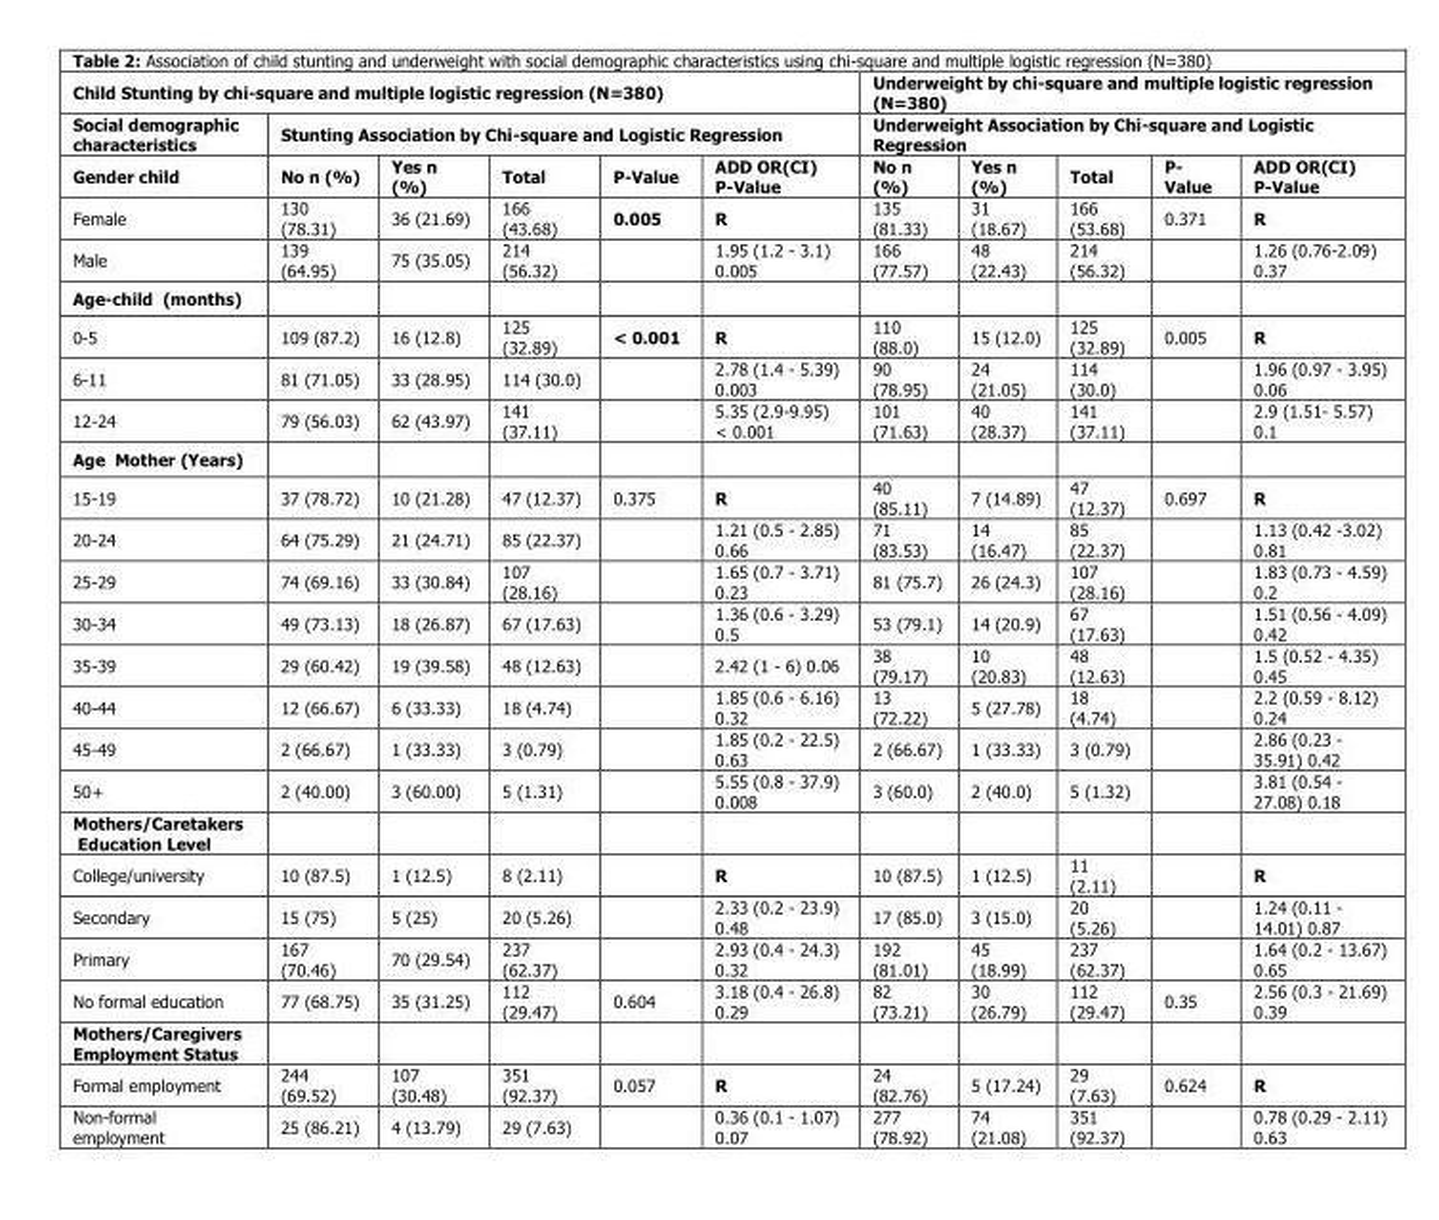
<table><thead><tr><td colspan="6">Child Stunting by chi-square and multiple logistic regression (N=380)</td><td rowspan="2" colspan="5">Underweight by chi-square and multiple logistic regression (N=380) Underweight Association by Chi-square and Logistic Regression</td></tr><tr><td rowspan="2">Social demographic characteristics Gender child</td><td colspan="5">Stunting Association by Chi-square and Logistic Regression</td></tr><tr><td>No n (%)</td><td>Yes n (%)</td><td>Total</td><td>P-Value</td><td>ADD OR(CI) P-Value</td><td>No n (%)</td><td>Yes n (%)</td><td>Total</td><td>P- Value</td><td>ADD OR(CI) P-Value</td></tr></thead><tbody><tr><td>Female</td><td>130 (78.31)</td><td>36 (21.69)</td><td>166 (43.68)</td><td>0.005</td><td>R</td><td>135 (81.33)</td><td>31 (18.67)</td><td>166 (53.68)</td><td>0.371</td><td>R</td></tr><tr><td>Male</td><td>139 (64.95)</td><td>75 (35.05)</td><td>214 (56.32)</td><td></td><td>1.95 (1.2 - 3.1) 0.005</td><td>166 (77.57)</td><td>48 (22.43)</td><td>214 (56.32)</td><td></td><td>1.26 (0.76-2.09) 0.37</td></tr><tr><td colspan="11">Age-child (months)</td></tr><tr><td>0-5</td><td>109 (87.2)</td><td>16 (12.8)</td><td>125 (32.89)</td><td>&lt; 0.001</td><td>R</td><td>110 (88.0)</td><td>15 (12.0)</td><td>125 (32.89)</td><td>0.005</td><td>R</td></tr><tr><td>6-11</td><td>81 (71.05)</td><td>33 (28.95)</td><td>114 (30.0)</td><td></td><td>2.78 (1.4 - 5.39) 0.003</td><td>90 (78.95)</td><td>24 (21.05)</td><td>114 (30.0)</td><td></td><td>1.96 (0.97 - 3.95) 0.06</td></tr><tr><td>12-24</td><td>79 (56.03)</td><td>62 (43.97)</td><td>141 (37.11)</td><td></td><td>5.35 (2.9-9.95) &lt; 0.001</td><td>101 (71.63)</td><td>40 (28.37)</td><td>141 (37.11)</td><td></td><td>2.9 (1.51- 5.57) 0.1</td></tr><tr><td colspan="11">Age Mother (Years)</td></tr><tr><td>15-19</td><td>37 (78.72)</td><td>10 (21.28)</td><td>47 (12.37)</td><td>0.375</td><td>R</td><td>40 (85.11)</td><td>7 (14.89)</td><td>47 (12.37)</td><td>0.697</td><td>R</td></tr><tr><td>20-24</td><td>64 (75.29)</td><td>21 (24.71)</td><td>85 (22.37)</td><td></td><td>1.21 (0.5 - 2.85) 0.66</td><td>71 (83.53)</td><td>14 (16.47)</td><td>85 (22.37)</td><td></td><td>1.13 (0.42 -3.02) 0.81</td></tr><tr><td>25-29</td><td>74 (69.16)</td><td>33 (30.84)</td><td>107 (28.16)</td><td></td><td>1.65 (0.7 - 3.71) 0.23</td><td>81 (75.7)</td><td>26 (24.3)</td><td>107 (28.16)</td><td></td><td>1.83 (0.73 - 4.59) 0.2</td></tr><tr><td>30-34</td><td>49 (73.13)</td><td>18 (26.87)</td><td>67 (17.63)</td><td></td><td>1.36 (0.6 - 3.29) 0.5</td><td>53 (79.1)</td><td>14 (20.9)</td><td>67 (17.63)</td><td></td><td>1.51 (0.56 - 4.09) 0.42</td></tr><tr><td>35-39</td><td>29 (60.42)</td><td>19 (39.58)</td><td>48 (12.63)</td><td></td><td>2.42 (1 - 6) 0.06</td><td>38 (79.17)</td><td>10 (20.83)</td><td>48 (12.63)</td><td></td><td>1.5 (0.52 - 4.35) 0.45</td></tr><tr><td>40-44</td><td>12 (66.67)</td><td>6 (33.33)</td><td>18 (4.74)</td><td></td><td>1.85 (0.6 - 6.16) 0.32</td><td>13 (72.22)</td><td>5 (27.78)</td><td>18 (4.74)</td><td></td><td>2.2 (0.59 - 8.12) 0.24</td></tr><tr><td>45-49</td><td>2 (66.67)</td><td>1 (33.33)</td><td>3 (0.79)</td><td></td><td>1.85 (0.2 - 22.5) 0.63</td><td>2 (66.67)</td><td>1 (33.33)</td><td>3 (0.79)</td><td></td><td>2.86 (0.23 - 35.91) 0.42</td></tr><tr><td>50+</td><td>2 (40.00)</td><td>3 (60.00)</td><td>5 (1.31)</td><td></td><td>5.55 (0.8 - 37.9) 0.008</td><td>3 (60.0)</td><td>2 (40.0)</td><td>5 (1.32)</td><td></td><td>3.81 (0.54 - 27.08) 0.18</td></tr><tr><td colspan="11">Mothers/Caretakers Education Level</td></tr><tr><td>College/university</td><td>10 (87.5)</td><td>1 (12.5)</td><td>8 (2.11)</td><td></td><td>R</td><td>10 (87.5)</td><td>1 (12.5)</td><td>11 (2.11)</td><td></td><td>R</td></tr><tr><td>Secondary</td><td>15 (75)</td><td>5 (25)</td><td>20 (5.26)</td><td></td><td>2.33 (0.2 - 23.9) 0.48</td><td>17 (85.0)</td><td>3 (15.0)</td><td>20 (5.26)</td><td></td><td>1.24 (0.11 - 14.01) 0.87</td></tr><tr><td>Primary</td><td>167 (70.46)</td><td>70 (29.54)</td><td>237 (62.37)</td><td></td><td>2.93 (0.4 - 24.3) 0.32</td><td>192 (81.01)</td><td>45 (18.99)</td><td>237 (62.37)</td><td></td><td>1.64 (0.2 - 13.67) 0.65</td></tr><tr><td>No formal education</td><td>77 (68.75)</td><td>35 (31.25)</td><td>112 (29.47)</td><td>0.604</td><td>3.18 (0.4 - 26.8) 0.29</td><td>82 (73.21)</td><td>30 (26.79)</td><td>112 (29.47)</td><td>0.35</td><td>2.56 (0.3 - 21.69) 0.39</td></tr><tr><td colspan="11">Mothers/Caregivers Employment Status</td></tr><tr><td>Formal employment</td><td>244 (69.52)</td><td>107 (30.48)</td><td>351 (92.37)</td><td>0.057</td><td>R</td><td>24 (82.76)</td><td>5 (17.24)</td><td>29 (7.63)</td><td>0.624</td><td>R</td></tr><tr><td>Non-formal employment</td><td>25 (86.21)</td><td>4 (13.79)</td><td>29 (7.63)</td><td></td><td>0.36 (0.1 - 1.07) 0.07</td><td>277 (78.92)</td><td>74 (21.08)</td><td>351 (92.37)</td><td></td><td>0.78 (0.29 - 2.11) 0.63</td></tr></tbody></table>